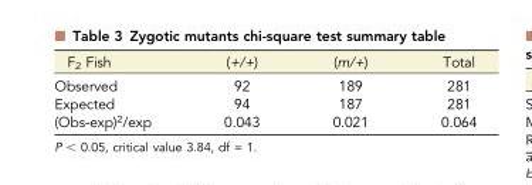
<table><thead><tr><td>F<sub>2</sub> Fish</td><td>(+/+)</td><td>(m/+)</td><td>Total</td></tr></thead><tbody><tr><td>Observed</td><td>92</td><td>189</td><td>281</td></tr><tr><td>Expected</td><td>94</td><td>187</td><td>281</td></tr><tr><td>(Obs-exp)<sup>2</sup>/exp</td><td>0.043</td><td>0.021</td><td>0.064</td></tr></tbody></table>